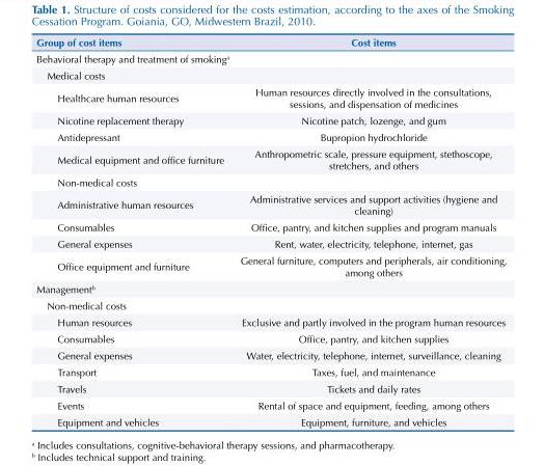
<table><thead><tr><td>Group of cost items</td><td>Cost items</td></tr></thead><tbody><tr><td colspan="2">Behavioral therapy and treatment of smoking<sup>a</sup></td></tr><tr><td colspan="2">Medical costs</td></tr><tr><td>Healthcare human resources</td><td>Human resources directly involved in the consultations, sessions, and dispensation of medicines</td></tr><tr><td>Nicotine replacement therapy</td><td>Nicotine patch, lozenge, and gum</td></tr><tr><td>Antidepressant</td><td>Bupropion hydrochloride</td></tr><tr><td>Medical equipment and office furniture</td><td>Anthropometric scale, pressure equipment, stethoscope, stretchers, and others</td></tr><tr><td colspan="2">Non-medical costs</td></tr><tr><td>Administrative human resources</td><td>Administrative services and support activities (hygiene and cleaning)</td></tr><tr><td>Consumables</td><td>Office, pantry, and kitchen supplies and program manuals</td></tr><tr><td>General expenses</td><td>Rent, water, electricity, telephone, internet, gas</td></tr><tr><td>Office equipment and furniture</td><td>General furniture, computers and peripherals, air conditioning, among others</td></tr><tr><td colspan="2">Management<sup>b</sup></td></tr><tr><td colspan="2">Non-medical costs</td></tr><tr><td>Human resources</td><td>Exclusive and partly involved in the program human resources</td></tr><tr><td>Consumables</td><td>Office, pantry, and kitchen supplies</td></tr><tr><td>General expenses</td><td>Water, electricity, telephone, internet, surveillance, cleaning</td></tr><tr><td>Transport</td><td>Taxes, fuel, and maintenance</td></tr><tr><td>Travels</td><td>Tickets and daily rates</td></tr><tr><td>Events</td><td>Rental of space and equipment, feeding, among others</td></tr><tr><td>Equipment and vehicles</td><td>Equipment, furniture, and vehicles</td></tr></tbody></table>